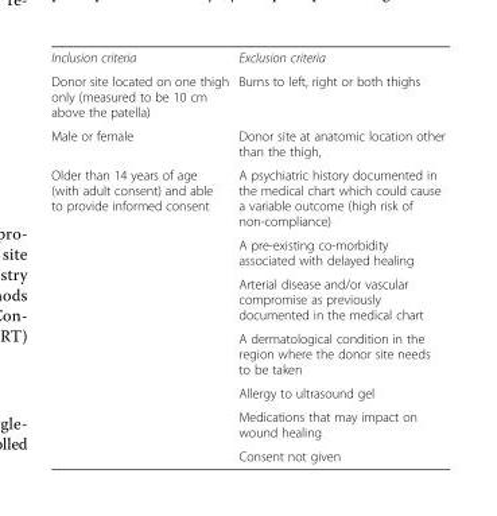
<table><tbody><tr><td>Inclusion criteria</td><td>Exclusion criteria</td></tr><tr><td>Donor site located on one thigh only (measured to be 10 cm above the patella)</td><td>Burns to left, right or both thighs</td></tr><tr><td>Male or female</td><td>Donor site at anatomic location other than the thigh,</td></tr><tr><td rowspan="7">Older than 14 years of age (with adult consent) and able to provide informed consent</td><td>A psychiatric history documented in the medical chart which could cause a variable outcome (high risk of non-compliance)</td></tr><tr><td>A pre-existing co-morbidity associated with delayed healing</td></tr><tr><td>Arterial disease and/or vascular compromise as previously documented in the medical chart</td></tr><tr><td>A dermatological condition in the region where the donor site needs to be taken</td></tr><tr><td>Allergy to ultrasound gel</td></tr><tr><td>Medications that may impact on wound healing</td></tr><tr><td>Consent not given</td></tr></tbody></table>